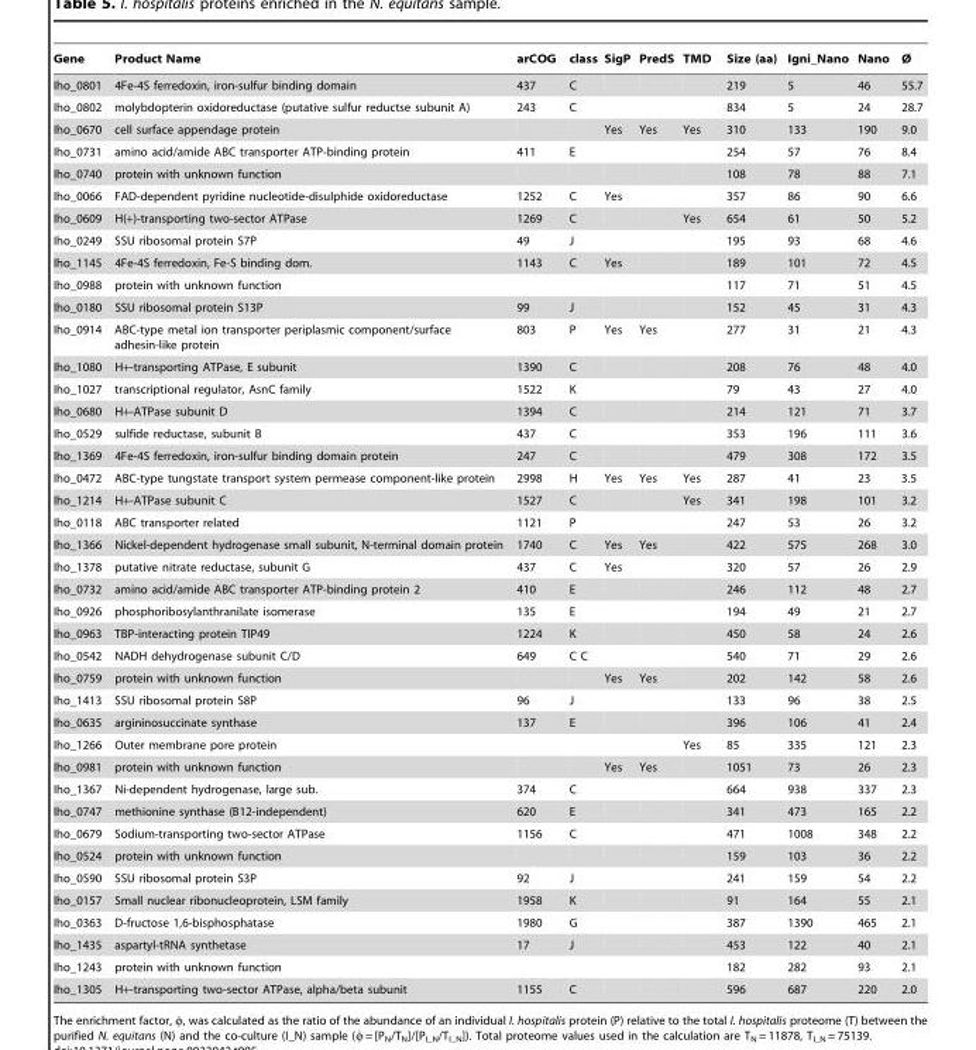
<table><thead><tr><td>Gene</td><td>Product Name</td><td>arCOG</td><td>class</td><td>SigP</td><td>PredS</td><td>TMD</td><td>Size (aa)</td><td>Igni_Nano</td><td>Nano</td><td>Ø</td></tr></thead><tbody><tr><td>Iho_0801</td><td>4Fe-4S ferredoxin, iron-sulfur binding domain</td><td>437</td><td>C</td><td></td><td></td><td></td><td>219</td><td>5</td><td>46</td><td>55.7</td></tr><tr><td>Iho_0802</td><td>molybdopterin oxidoreductase (putative sulfur reductse subunit A)</td><td>243</td><td>C</td><td></td><td></td><td></td><td>834</td><td>5</td><td>24</td><td>28.7</td></tr><tr><td>Iho_0670</td><td>cell surface appendage protein</td><td></td><td></td><td>Yes</td><td>Yes</td><td>Yes</td><td>310</td><td>133</td><td>190</td><td>9.0</td></tr><tr><td>Iho_0731</td><td>amino acid/amide ABC transporter ATP-binding protein</td><td>411</td><td>E</td><td></td><td></td><td></td><td>254</td><td>57</td><td>76</td><td>8.4</td></tr><tr><td>Iho_0740</td><td>protein with unknown function</td><td></td><td></td><td></td><td></td><td></td><td>108</td><td>78</td><td>88</td><td>7.1</td></tr><tr><td>Iho_0066</td><td>FAD-dependent pyridine nucleotide-disulphide oxidoreductase</td><td>1252</td><td>C</td><td>Yes</td><td></td><td></td><td>357</td><td>86</td><td>90</td><td>6.6</td></tr><tr><td>Iho_0609</td><td>H(+)-transporting two-sector ATPase</td><td>1269</td><td>C</td><td></td><td></td><td>Yes</td><td>654</td><td>61</td><td>50</td><td>5.2</td></tr><tr><td>Iho_0249</td><td>SSU ribosomal protein S7P</td><td>49</td><td>J</td><td></td><td></td><td></td><td>195</td><td>93</td><td>68</td><td>4.6</td></tr><tr><td>Iho_1145</td><td>4Fe-4S ferredoxin, Fe-S binding dom.</td><td>1143</td><td>C</td><td>Yes</td><td></td><td></td><td>189</td><td>101</td><td>72</td><td>4.5</td></tr><tr><td>Iho_0988</td><td>protein with unknown function</td><td></td><td></td><td></td><td></td><td></td><td>117</td><td>71</td><td>51</td><td>4.5</td></tr><tr><td>Iho_0180</td><td>SSU ribosomal protein S13P</td><td>99</td><td>J</td><td></td><td></td><td></td><td>152</td><td>45</td><td>31</td><td>4.3</td></tr><tr><td>Iho_0914</td><td>ABC-type metal ion transporter periplasmic component/surface adhesin-like protein</td><td>803</td><td>P</td><td>Yes</td><td>Yes</td><td></td><td>277</td><td>31</td><td>21</td><td>4.3</td></tr><tr><td>Iho_1080</td><td>H+-transporting ATPase, E subunit</td><td>1390</td><td>C</td><td></td><td></td><td></td><td>208</td><td>76</td><td>48</td><td>4.0</td></tr><tr><td>Iho_1027</td><td>transcriptional regulator, AsnC family</td><td>1522</td><td>K</td><td></td><td></td><td></td><td>79</td><td>43</td><td>27</td><td>4.0</td></tr><tr><td>Iho_0680</td><td>H+-ATPase subunit D</td><td>1394</td><td>C</td><td></td><td></td><td></td><td>214</td><td>121</td><td>71</td><td>3.7</td></tr><tr><td>Iho_0529</td><td>sulfide reductase, subunit B</td><td>437</td><td>C</td><td></td><td></td><td></td><td>353</td><td>196</td><td>111</td><td>3.6</td></tr><tr><td>Iho_1369</td><td>4Fe-4S ferredoxin, iron-sulfur binding domain protein</td><td>247</td><td>C</td><td></td><td></td><td></td><td>479</td><td>308</td><td>172</td><td>3.5</td></tr><tr><td>Iho_0472</td><td>ABC-type tungstate transport system permease component-like protein</td><td>2998</td><td>H</td><td>Yes</td><td>Yes</td><td>Yes</td><td>287</td><td>41</td><td>23</td><td>3.5</td></tr><tr><td>Iho_1214</td><td>H+-ATPase subunit C</td><td>1527</td><td>C</td><td></td><td></td><td>Yes</td><td>341</td><td>198</td><td>101</td><td>3.2</td></tr><tr><td>Iho_0118</td><td>ABC transporter related</td><td>1121</td><td>P</td><td></td><td></td><td></td><td>247</td><td>53</td><td>26</td><td>3.2</td></tr><tr><td>Iho_1366</td><td>Nickel-dependent hydrogenase small subunit, N-terminal domain protein</td><td>1740</td><td>C</td><td>Yes</td><td>Yes</td><td></td><td>422</td><td>575</td><td>268</td><td>3.0</td></tr><tr><td>Iho_1378</td><td>putative nitrate reductase, subunit G</td><td>437</td><td>C</td><td>Yes</td><td></td><td></td><td>320</td><td>57</td><td>26</td><td>2.9</td></tr><tr><td>Iho_0732</td><td>amino acid/amide ABC transporter ATP-binding protein 2</td><td>410</td><td>E</td><td></td><td></td><td></td><td>246</td><td>112</td><td>48</td><td>2.7</td></tr><tr><td>Iho_0926</td><td>phosphoribosylanthranilate isomerase</td><td>135</td><td>E</td><td></td><td></td><td></td><td>194</td><td>49</td><td>21</td><td>2.7</td></tr><tr><td>Iho_0963</td><td>TBP-interacting protein TIP49</td><td>1224</td><td>K</td><td></td><td></td><td></td><td>450</td><td>58</td><td>24</td><td>2.6</td></tr><tr><td>Iho_0542</td><td>NADH dehydrogenase subunit C/D</td><td>649</td><td>C C</td><td></td><td></td><td></td><td>540</td><td>71</td><td>29</td><td>2.6</td></tr><tr><td>Iho_0759</td><td>protein with unknown function</td><td></td><td></td><td>Yes</td><td>Yes</td><td></td><td>202</td><td>142</td><td>58</td><td>2.6</td></tr><tr><td>Iho_1413</td><td>SSU ribosomal protein S8P</td><td>96</td><td>J</td><td></td><td></td><td></td><td>133</td><td>96</td><td>38</td><td>2.5</td></tr><tr><td>Iho_0635</td><td>argininosuccinate synthase</td><td>137</td><td>E</td><td></td><td></td><td></td><td>396</td><td>106</td><td>41</td><td>2.4</td></tr><tr><td>Iho_1266</td><td>Outer membrane pore protein</td><td></td><td></td><td></td><td></td><td>Yes</td><td>85</td><td>335</td><td>121</td><td>2.3</td></tr><tr><td>Iho_0981</td><td>protein with unknown function</td><td></td><td></td><td>Yes</td><td>Yes</td><td></td><td>1051</td><td>73</td><td>26</td><td>2.3</td></tr><tr><td>Iho_1367</td><td>Ni-dependent hydrogenase, large sub.</td><td>374</td><td>C</td><td></td><td></td><td></td><td>664</td><td>938</td><td>337</td><td>2.3</td></tr><tr><td>Iho_0747</td><td>methionine synthase (B12-independent)</td><td>620</td><td>E</td><td></td><td></td><td></td><td>341</td><td>473</td><td>165</td><td>2.2</td></tr><tr><td>Iho_0679</td><td>Sodium-transporting two-sector ATPase</td><td>1156</td><td>C</td><td></td><td></td><td></td><td>471</td><td>1008</td><td>348</td><td>2.2</td></tr><tr><td>Iho_0524</td><td>protein with unknown function</td><td></td><td></td><td></td><td></td><td></td><td>159</td><td>103</td><td>36</td><td>2.2</td></tr><tr><td>Iho_0590</td><td>SSU ribosomal protein S3P</td><td>92</td><td>J</td><td></td><td></td><td></td><td>241</td><td>159</td><td>54</td><td>2.2</td></tr><tr><td>Iho_0157</td><td>Small nuclear ribonucleoprotein, LSM family</td><td>1958</td><td>K</td><td></td><td></td><td></td><td>91</td><td>164</td><td>55</td><td>2.1</td></tr><tr><td>Iho_0363</td><td>D-fructose 1,6-bisphosphatase</td><td>1980</td><td>G</td><td></td><td></td><td></td><td>387</td><td>1390</td><td>465</td><td>2.1</td></tr><tr><td>Iho_1435</td><td>aspartyl-tRNA synthetase</td><td>17</td><td>J</td><td></td><td></td><td></td><td>453</td><td>122</td><td>40</td><td>2.1</td></tr><tr><td>Iho_1243</td><td>protein with unknown function</td><td></td><td></td><td></td><td></td><td></td><td>182</td><td>282</td><td>93</td><td>2.1</td></tr><tr><td>Iho_1305</td><td>H+-transporting two-sector ATPase, alpha/beta subunit</td><td>1155</td><td>C</td><td></td><td></td><td></td><td>596</td><td>687</td><td>220</td><td>2.0</td></tr></tbody></table>